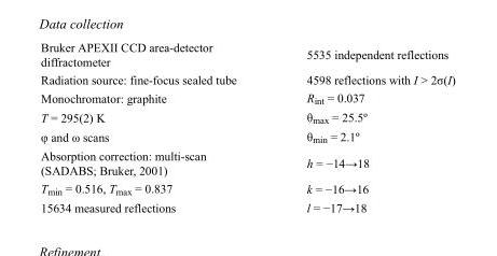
<table><tbody><tr><td>Bruker APEXII CCD area-detector diffractometer</td><td>5535 independent reflections</td></tr><tr><td>Radiation source: fine-focus sealed tube</td><td>4598 reflections with I &gt; 2σ(I)</td></tr><tr><td>Monochromator: graphite</td><td>R<sub>int</sub> = 0.037</td></tr><tr><td>T = 295(2) K</td><td>θ<sub>max</sub> = 25.5º</td></tr><tr><td>φ and ω scans</td><td>θ<sub>min</sub> = 2.1º</td></tr><tr><td>Absorption correction: multi-scan (SADABS; Bruker, 2001)</td><td>h = −14→18</td></tr><tr><td>T<sub>min</sub> = 0.516, T<sub>max</sub> = 0.837</td><td>k = −16→16</td></tr><tr><td>15634 measured reflections</td><td>l = −17→18</td></tr></tbody></table>